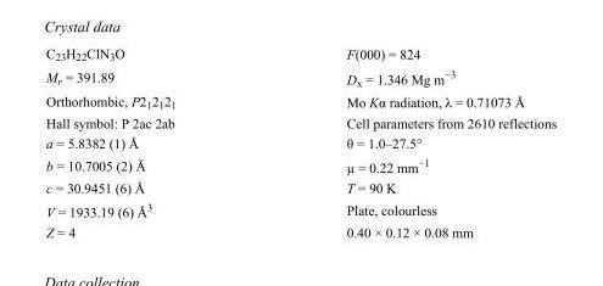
<table><tbody><tr><td>C<sub>23</sub>H<sub>22</sub>ClN<sub>3</sub>O</td><td>F(000) = 824</td></tr><tr><td>M<sub>r</sub> = 391.89</td><td>D<sub>x</sub> = 1.346 Mg m<sup>−3</sup></td></tr><tr><td>Orthorhombic, P2<sub>1</sub>2<sub>1</sub>2<sub>1</sub></td><td>Mo Kα radiation, λ = 0.71073 Å</td></tr><tr><td>Hall symbol: P 2ac 2ab</td><td>Cell parameters from 2610 reflections</td></tr><tr><td>a = 5.8382 (1) Å</td><td>θ = 1.0–27.5°</td></tr><tr><td>b = 10.7005 (2) Å</td><td>µ = 0.22 mm<sup>−1</sup></td></tr><tr><td>c = 30.9451 (6) Å</td><td>T = 90 K</td></tr><tr><td>V = 1933.19 (6) Å<sup>3</sup></td><td>Plate, colourless</td></tr><tr><td>Z = 4</td><td>0.40 × 0.12 × 0.08 mm</td></tr></tbody></table>